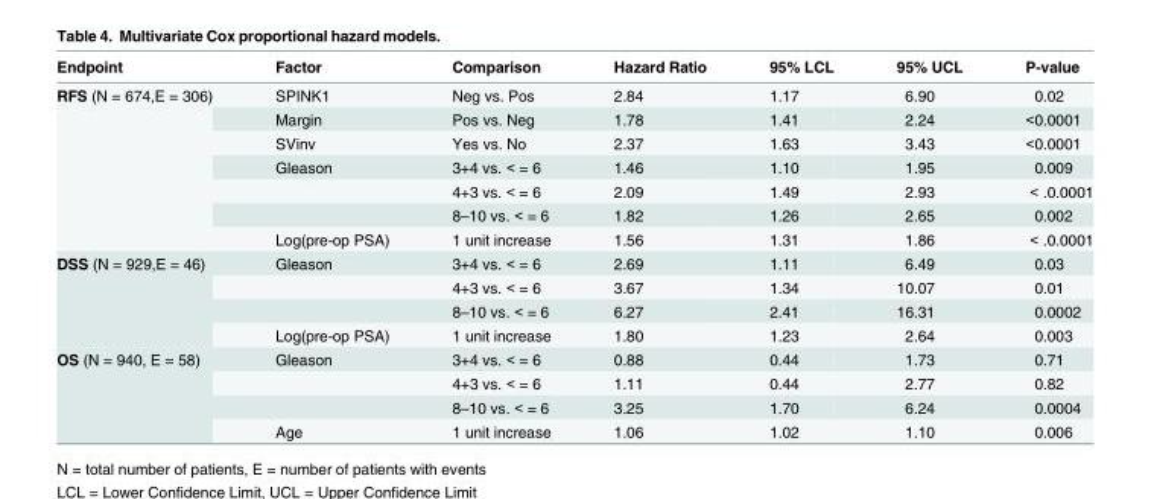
<table><thead><tr><td>Endpoint</td><td>Factor</td><td>Comparison</td><td>Hazard Ratio</td><td>95% LCL</td><td>95% UCL</td><td>P-value</td></tr></thead><tbody><tr><td rowspan="7">RFS (N = 674,E = 306)</td><td>SPINK1</td><td>Neg vs. Pos</td><td>2.84</td><td>1.17</td><td>6.90</td><td>0.02</td></tr><tr><td>Margin</td><td>Pos vs. Neg</td><td>1.78</td><td>1.41</td><td>2.24</td><td>&lt;0.0001</td></tr><tr><td>SVinv</td><td>Yes vs. No</td><td>2.37</td><td>1.63</td><td>3.43</td><td>&lt;0.0001</td></tr><tr><td>Gleason</td><td>3+4 vs. &lt; = 6</td><td>1.46</td><td>1.10</td><td>1.95</td><td>0.009</td></tr><tr><td></td><td>4+3 vs. &lt; = 6</td><td>2.09</td><td>1.49</td><td>2.93</td><td>&lt; .0.0001</td></tr><tr><td></td><td>8–10 vs. &lt; = 6</td><td>1.82</td><td>1.26</td><td>2.65</td><td>0.002</td></tr><tr><td>Log(pre-op PSA)</td><td>1 unit increase</td><td>1.56</td><td>1.31</td><td>1.86</td><td>&lt; .0.0001</td></tr><tr><td rowspan="4">DSS (N = 929,E = 46)</td><td>Gleason</td><td>3+4 vs. &lt; = 6</td><td>2.69</td><td>1.11</td><td>6.49</td><td>0.03</td></tr><tr><td></td><td>4+3 vs. &lt; = 6</td><td>3.67</td><td>1.34</td><td>10.07</td><td>0.01</td></tr><tr><td></td><td>8–10 vs. &lt; = 6</td><td>6.27</td><td>2.41</td><td>16.31</td><td>0.0002</td></tr><tr><td>Log(pre-op PSA)</td><td>1 unit increase</td><td>1.80</td><td>1.23</td><td>2.64</td><td>0.003</td></tr><tr><td rowspan="4">OS (N = 940, E = 58)</td><td>Gleason</td><td>3+4 vs. &lt; = 6</td><td>0.88</td><td>0.44</td><td>1.73</td><td>0.71</td></tr><tr><td></td><td>4+3 vs. &lt; = 6</td><td>1.11</td><td>0.44</td><td>2.77</td><td>0.82</td></tr><tr><td></td><td>8–10 vs. &lt; = 6</td><td>3.25</td><td>1.70</td><td>6.24</td><td>0.0004</td></tr><tr><td>Age</td><td>1 unit increase</td><td>1.06</td><td>1.02</td><td>1.10</td><td>0.006</td></tr></tbody></table>